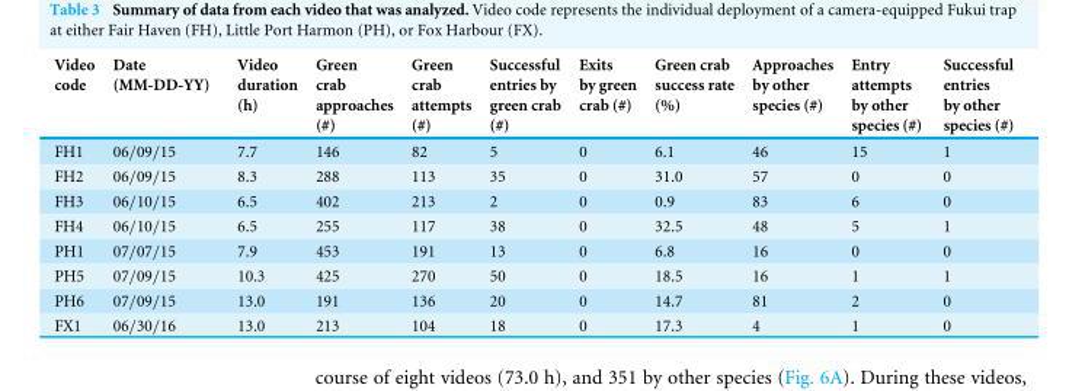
<table><thead><tr><td>Video code</td><td>Date (MM-DD-YY)</td><td>Video duration (h)</td><td>Green crab approaches (#)</td><td>Green crab attempts (#)</td><td>Successful entries by green crab (#)</td><td>Exits by green crab (#)</td><td>Green crab success rate (%)</td><td>Approaches by other species (#)</td><td>Entry attempts by other species (#)</td><td>Successful entries by other species (#)</td></tr></thead><tbody><tr><td>FH1</td><td>06/09/15</td><td>7.7</td><td>146</td><td>82</td><td>5</td><td>0</td><td>6.1</td><td>46</td><td>15</td><td>1</td></tr><tr><td>FH2</td><td>06/09/15</td><td>8.3</td><td>288</td><td>113</td><td>35</td><td>0</td><td>31.0</td><td>57</td><td>0</td><td>0</td></tr><tr><td>FH3</td><td>06/10/15</td><td>6.5</td><td>402</td><td>213</td><td>2</td><td>0</td><td>0.9</td><td>83</td><td>6</td><td>0</td></tr><tr><td>FH4</td><td>06/10/15</td><td>6.5</td><td>255</td><td>117</td><td>38</td><td>0</td><td>32.5</td><td>48</td><td>5</td><td>1</td></tr><tr><td>PH1</td><td>07/07/15</td><td>7.9</td><td>453</td><td>191</td><td>13</td><td>0</td><td>6.8</td><td>16</td><td>0</td><td>0</td></tr><tr><td>PH5</td><td>07/09/15</td><td>10.3</td><td>425</td><td>270</td><td>50</td><td>0</td><td>18.5</td><td>16</td><td>1</td><td>1</td></tr><tr><td>PH6</td><td>07/09/15</td><td>13.0</td><td>191</td><td>136</td><td>20</td><td>0</td><td>14.7</td><td>81</td><td>2</td><td>0</td></tr><tr><td>FX1</td><td>06/30/16</td><td>13.0</td><td>213</td><td>104</td><td>18</td><td>0</td><td>17.3</td><td>4</td><td>1</td><td>0</td></tr></tbody></table>